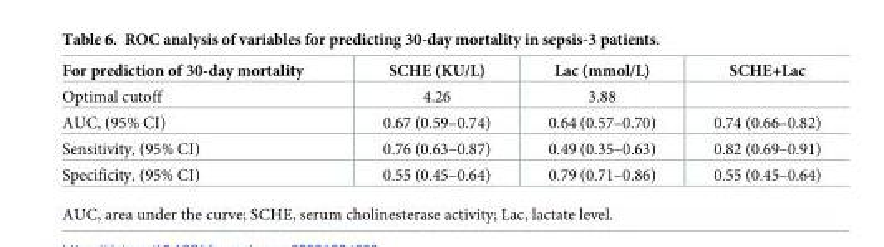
<table><thead><tr><td>For prediction of 30-day mortality</td><td>SCHE (KU/L)</td><td>Lac (mmol/L)</td><td>SCHE+Lac</td></tr></thead><tbody><tr><td>Optimal cutoff</td><td>4.26</td><td>3.88</td><td></td></tr><tr><td>AUC, (95% CI)</td><td>0.67 (0.59–0.74)</td><td>0.64 (0.57–0.70)</td><td>0.74 (0.66–0.82)</td></tr><tr><td>Sensitivity, (95% CI)</td><td>0.76 (0.63–0.87)</td><td>0.49 (0.35–0.63)</td><td>0.82 (0.69–0.91)</td></tr><tr><td>Specificity, (95% CI)</td><td>0.55 (0.45–0.64)</td><td>0.79 (0.71–0.86)</td><td>0.55 (0.45–0.64)</td></tr></tbody></table>